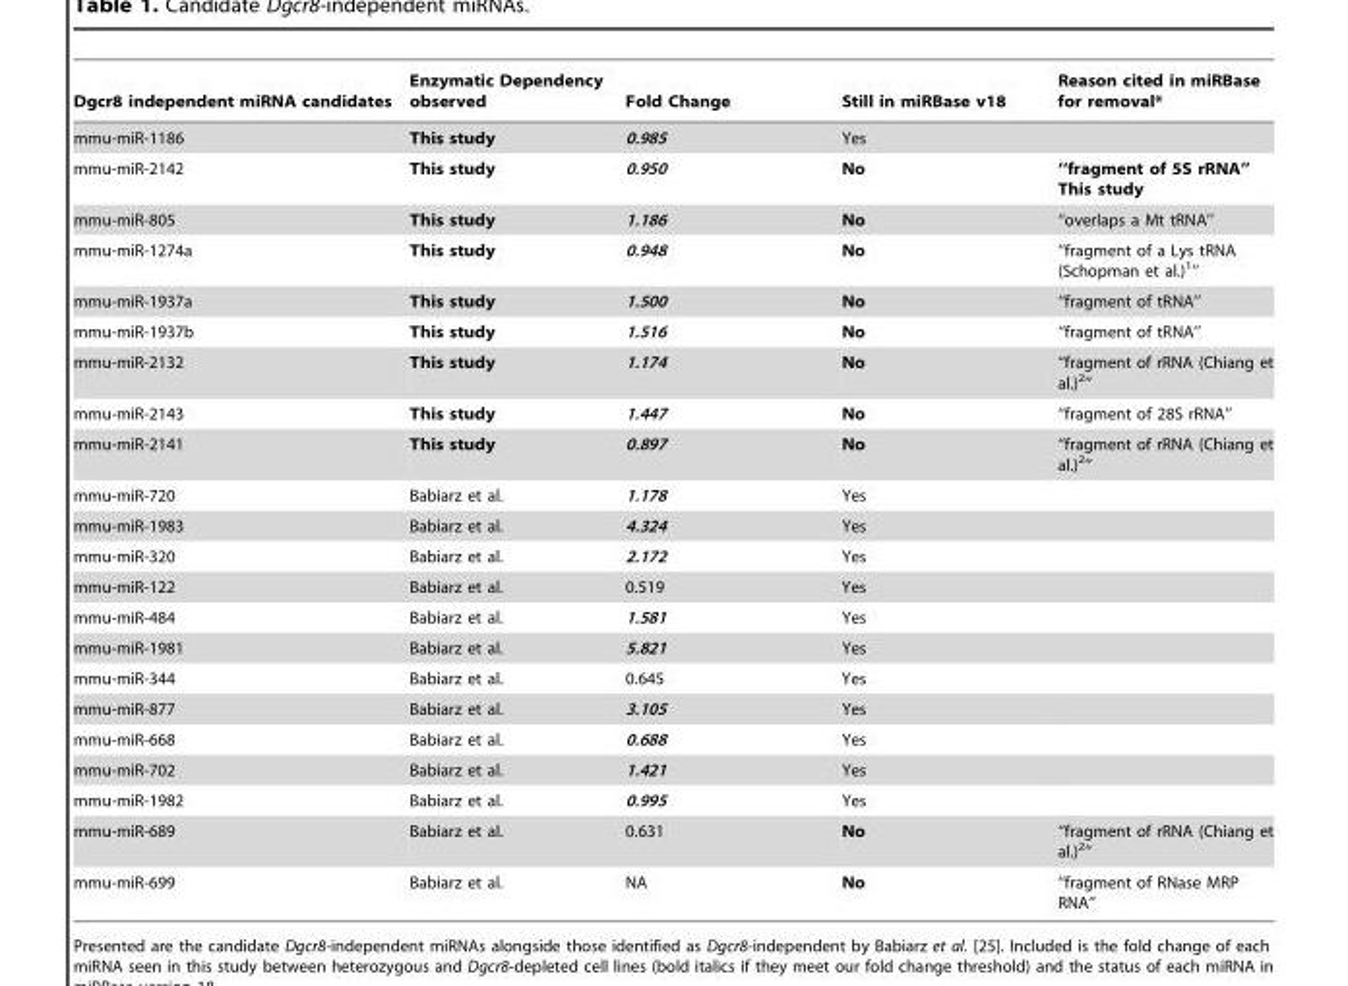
<table><thead><tr><td>Dgcr8 independent miRNA candidates</td><td>Enzymatic Dependency observed</td><td>Fold Change</td><td>Still in miRBase v18</td><td>Reason cited in miRBase for removal*</td></tr></thead><tbody><tr><td>mmu-miR-1186</td><td>This study</td><td>0.985</td><td>Yes</td><td></td></tr><tr><td>mmu-miR-2142</td><td>This study</td><td>0.950</td><td>No</td><td>‘‘fragment of 5S rRNA’’ This study</td></tr><tr><td>mmu-miR-805</td><td>This study</td><td>1.186</td><td>No</td><td>‘‘overlaps a Mt tRNA’’</td></tr><tr><td>mmu-miR-1274a</td><td>This study</td><td>0.948</td><td>No</td><td>‘‘fragment of a Lys tRNA (Schopman et al.)1’’</td></tr><tr><td>mmu-miR-1937a</td><td>This study</td><td>1.500</td><td>No</td><td>‘‘fragment of tRNA’’</td></tr><tr><td>mmu-miR-1937b</td><td>This study</td><td>1.516</td><td>No</td><td>‘‘fragment of tRNA’’</td></tr><tr><td>mmu-miR-2132</td><td>This study</td><td>1.174</td><td>No</td><td>‘‘fragment of rRNA (Chiang et al.)2’’</td></tr><tr><td>mmu-miR-2143</td><td>This study</td><td>1.447</td><td>No</td><td>‘‘fragment of 28S rRNA’’</td></tr><tr><td>mmu-miR-2141</td><td>This study</td><td>0.897</td><td>No</td><td>‘‘fragment of rRNA (Chiang et al.)2’’</td></tr><tr><td>mmu-miR-720</td><td>Babiarz et al.</td><td>1.178</td><td>Yes</td><td></td></tr><tr><td>mmu-miR-1983</td><td>Babiarz et al.</td><td>4.324</td><td>Yes</td><td></td></tr><tr><td>mmu-miR-320</td><td>Babiarz et al.</td><td>2.172</td><td>Yes</td><td></td></tr><tr><td>mmu-miR-122</td><td>Babiarz et al.</td><td>0.519</td><td>Yes</td><td></td></tr><tr><td>mmu-miR-484</td><td>Babiarz et al.</td><td>1.581</td><td>Yes</td><td></td></tr><tr><td>mmu-miR-1981</td><td>Babiarz et al.</td><td>5.821</td><td>Yes</td><td></td></tr><tr><td>mmu-miR-344</td><td>Babiarz et al.</td><td>0.645</td><td>Yes</td><td></td></tr><tr><td>mmu-miR-877</td><td>Babiarz et al.</td><td>3.105</td><td>Yes</td><td></td></tr><tr><td>mmu-miR-668</td><td>Babiarz et al.</td><td>0.688</td><td>Yes</td><td></td></tr><tr><td>mmu-miR-702</td><td>Babiarz et al.</td><td>1.421</td><td>Yes</td><td></td></tr><tr><td>mmu-miR-1982</td><td>Babiarz et al.</td><td>0.995</td><td>Yes</td><td></td></tr><tr><td>mmu-miR-689</td><td>Babiarz et al.</td><td>0.631</td><td>No</td><td>‘‘fragment of rRNA (Chiang et al.)2’’</td></tr><tr><td>mmu-miR-699</td><td>Babiarz et al.</td><td>NA</td><td>No</td><td>‘‘fragment of RNase MRP RNA’’</td></tr></tbody></table>